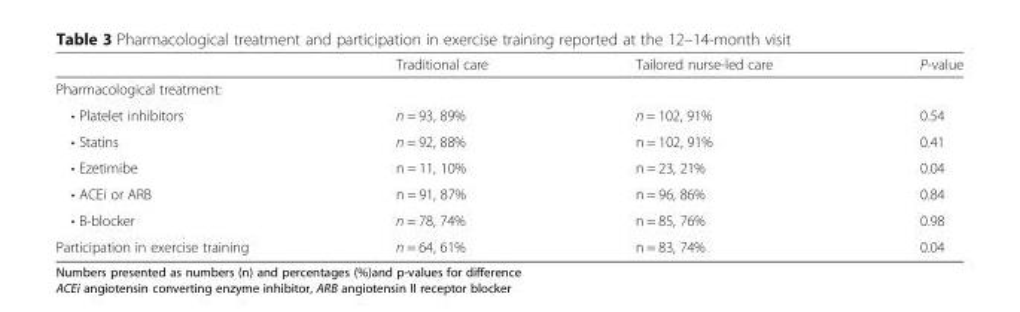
<table><thead><tr><td></td><td>Traditional care</td><td>Tailored nurse-led care</td><td>P-value</td></tr></thead><tbody><tr><td colspan="4">Pharmacological treatment:</td></tr><tr><td>• Platelet inhibitors</td><td>n = 93, 89%</td><td>n = 102, 91%</td><td>0.54</td></tr><tr><td>• Statins</td><td>n = 92, 88%</td><td>n = 102, 91%</td><td>0.41</td></tr><tr><td>• Ezetimibe</td><td>n = 11, 10%</td><td>n = 23, 21%</td><td>0.04</td></tr><tr><td>• ACEi or ARB</td><td>n = 91, 87%</td><td>n = 96, 86%</td><td>0.84</td></tr><tr><td>• Β-blocker</td><td>n = 78, 74%</td><td>n = 85, 76%</td><td>0.98</td></tr><tr><td>Participation in exercise training</td><td>n = 64, 61%</td><td>n = 83, 74%</td><td>0.04</td></tr></tbody></table>